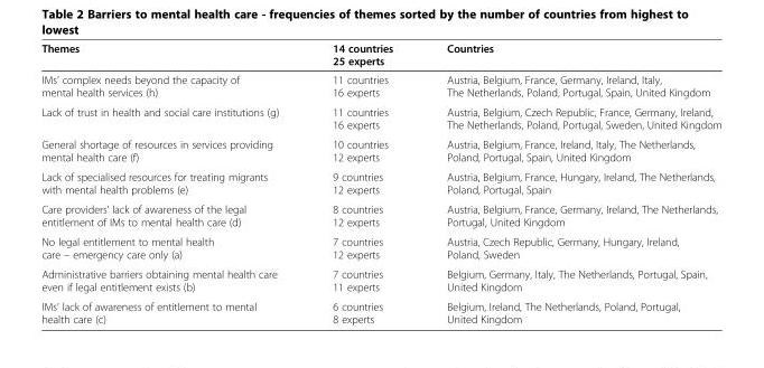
<table><thead><tr><td>Themes</td><td>14 countries 25 experts</td><td>Countries</td></tr></thead><tbody><tr><td>IMs’ complex needs beyond the capacity of mental health services (h)</td><td>11 countries 16 experts</td><td>Austria, Belgium, France, Germany, Ireland, Italy, The Netherlands, Poland, Portugal, Spain, United Kingdom</td></tr><tr><td>Lack of trust in health and social care institutions (g)</td><td>11 countries 16 experts</td><td>Austria, Belgium, Czech Republic, France, Germany, Ireland, The Netherlands, Poland, Portugal, Sweden, United Kingdom</td></tr><tr><td>General shortage of resources in services providing mental health care (f)</td><td>10 countries 12 experts</td><td>Austria, Belgium, France, Ireland, Italy, The Netherlands, Poland, Portugal, Spain, United Kingdom</td></tr><tr><td>Lack of specialised resources for treating migrants with mental health problems (e)</td><td>9 countries 12 experts</td><td>Austria, Belgium, France, Hungary, Ireland, The Netherlands, Poland, Portugal, Spain</td></tr><tr><td>Care providers’ lack of awareness of the legal entitlement of IMs to mental health care (d)</td><td>8 countries 12 experts</td><td>Austria, Belgium, France, Germany, Ireland, The Netherlands, Portugal, United Kingdom</td></tr><tr><td>No legal entitlement to mental health care – emergency care only (a)</td><td>7 countries 12 experts</td><td>Austria, Czech Republic, Germany, Hungary, Ireland, Poland, Sweden</td></tr><tr><td>Administrative barriers obtaining mental health care even if legal entitlement exists (b)</td><td>7 countries 11 experts</td><td>Belgium, Germany, Italy, The Netherlands, Portugal, Spain, United Kingdom</td></tr><tr><td>IMs’ lack of awareness of entitlement to mental health care (c)</td><td>6 countries 8 experts</td><td>Belgium, Ireland, The Netherlands, Poland, Portugal, United Kingdom</td></tr></tbody></table>